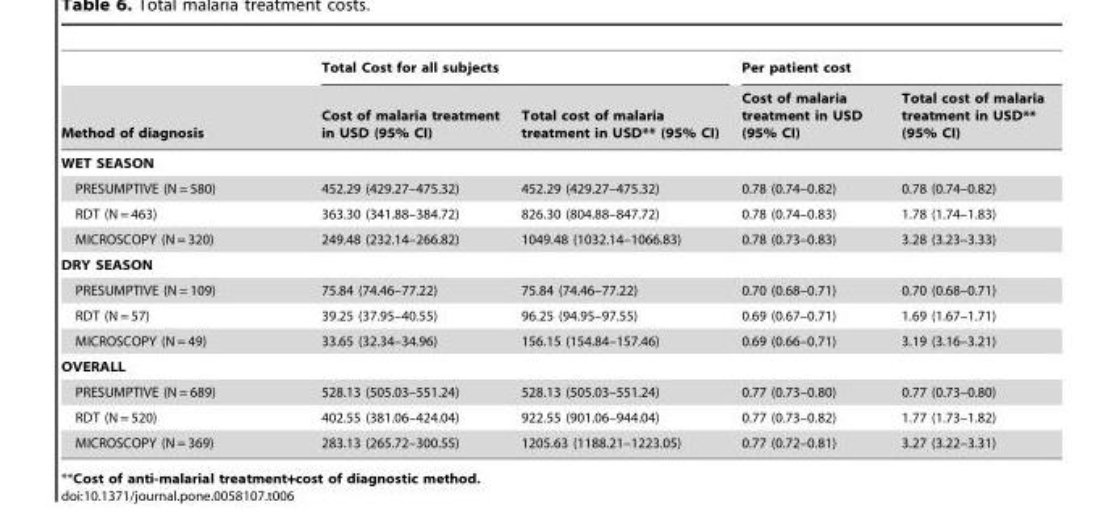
<table><thead><tr><td rowspan="2">Method of diagnosis</td><td colspan="2">Total Cost for all subjects</td><td colspan="2">Per patient cost</td></tr><tr><td>Cost of malaria treatment in USD (95% CI)</td><td>Total cost of malaria treatment in USD** (95% CI)</td><td>Cost of malaria treatment in USD (95% CI)</td><td>Total cost of malaria treatment in USD** (95% CI)</td></tr></thead><tbody><tr><td colspan="5">WET SEASON</td></tr><tr><td>PRESUMPTIVE (N = 580)</td><td>452.29 (429.27–475.32)</td><td>452.29 (429.27–475.32)</td><td>0.78 (0.74–0.82)</td><td>0.78 (0.74–0.82)</td></tr><tr><td>RDT (N = 463)</td><td>363.30 (341.88–384.72)</td><td>826.30 (804.88–847.72)</td><td>0.78 (0.74–0.83)</td><td>1.78 (1.74–1.83)</td></tr><tr><td>MICROSCOPY (N = 320)</td><td>249.48 (232.14–266.82)</td><td>1049.48 (1032.14–1066.83)</td><td>0.78 (0.73–0.83)</td><td>3.28 (3.23–3.33)</td></tr><tr><td colspan="5">DRY SEASON</td></tr><tr><td>PRESUMPTIVE (N = 109)</td><td>75.84 (74.46–77.22)</td><td>75.84 (74.46–77.22)</td><td>0.70 (0.68–0.71)</td><td>0.70 (0.68–0.71)</td></tr><tr><td>RDT (N = 57)</td><td>39.25 (37.95–40.55)</td><td>96.25 (94.95–97.55)</td><td>0.69 (0.67–0.71)</td><td>1.69 (1.67–1.71)</td></tr><tr><td>MICROSCOPY (N = 49)</td><td>33.65 (32.34–34.96)</td><td>156.15 (154.84–157.46)</td><td>0.69 (0.66–0.71)</td><td>3.19 (3.16–3.21)</td></tr><tr><td colspan="5">OVERALL</td></tr><tr><td>PRESUMPTIVE (N = 689)</td><td>528.13 (505.03–551.24)</td><td>528.13 (505.03–551.24)</td><td>0.77 (0.73–0.80)</td><td>0.77 (0.73–0.80)</td></tr><tr><td>RDT (N = 520)</td><td>402.55 (381.06–424.04)</td><td>922.55 (901.06–944.04)</td><td>0.77 (0.73–0.82)</td><td>1.77 (1.73–1.82)</td></tr><tr><td>MICROSCOPY (N = 369)</td><td>283.13 (265.72–300.55)</td><td>1205.63 (1188.21–1223.05)</td><td>0.77 (0.72–0.81)</td><td>3.27 (3.22–3.31)</td></tr></tbody></table>